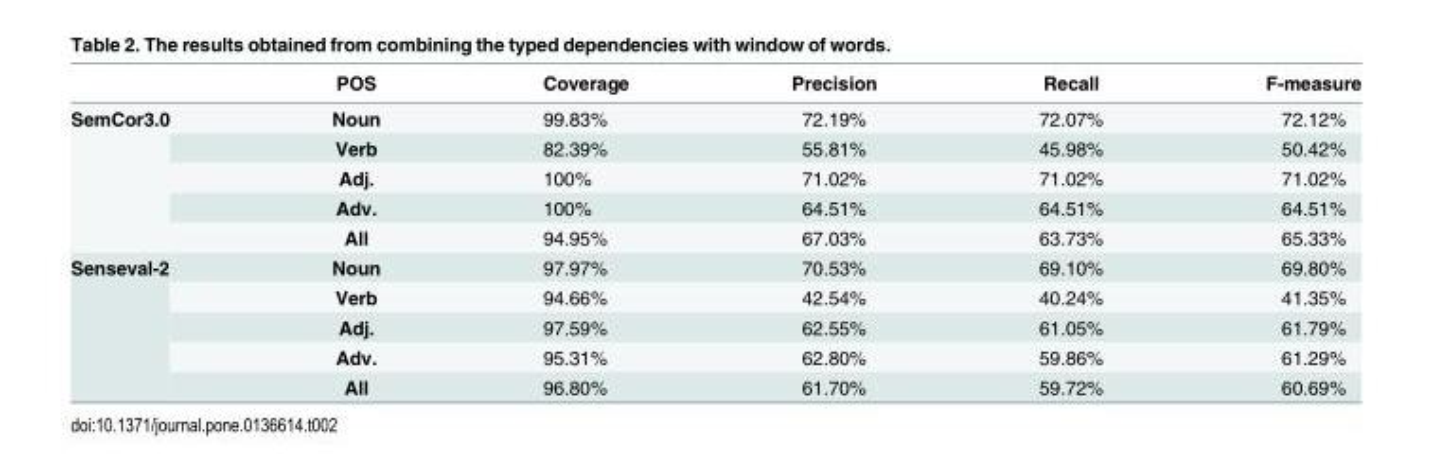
<table><thead><tr><td></td><td>POS</td><td>Coverage</td><td>Precision</td><td>Recall</td><td>F-measure</td></tr></thead><tbody><tr><td rowspan="5">SemCor3.0</td><td>Noun</td><td>99.83%</td><td>72.19%</td><td>72.07%</td><td>72.12%</td></tr><tr><td>Verb</td><td>82.39%</td><td>55.81%</td><td>45.98%</td><td>50.42%</td></tr><tr><td>Adj.</td><td>100%</td><td>71.02%</td><td>71.02%</td><td>71.02%</td></tr><tr><td>Adv.</td><td>100%</td><td>64.51%</td><td>64.51%</td><td>64.51%</td></tr><tr><td>All</td><td>94.95%</td><td>67.03%</td><td>63.73%</td><td>65.33%</td></tr><tr><td rowspan="5">Senseval-2</td><td>Noun</td><td>97.97%</td><td>70.53%</td><td>69.10%</td><td>69.80%</td></tr><tr><td>Verb</td><td>94.66%</td><td>42.54%</td><td>40.24%</td><td>41.35%</td></tr><tr><td>Adj.</td><td>97.59%</td><td>62.55%</td><td>61.05%</td><td>61.79%</td></tr><tr><td>Adv.</td><td>95.31%</td><td>62.80%</td><td>59.86%</td><td>61.29%</td></tr><tr><td>All</td><td>96.80%</td><td>61.70%</td><td>59.72%</td><td>60.69%</td></tr></tbody></table>